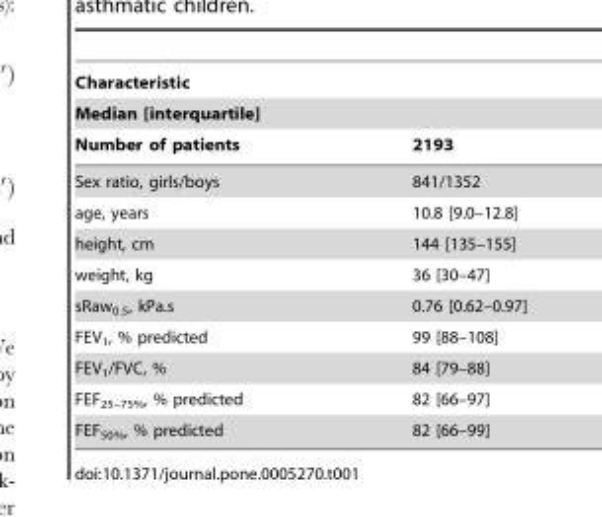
<table><thead><tr><td rowspan="3">Characteristic Median [interquartile] Number of patients</td><td rowspan="3">2193</td></tr><tr></tr><tr></tr></thead><tbody><tr><td>Sex ratio, girls/boys</td><td>841/1352</td></tr><tr><td>age, years</td><td>10.8 [9.0–12.8]</td></tr><tr><td>height, cm</td><td>144 [135–155]</td></tr><tr><td>weight, kg</td><td>36 [30–47]</td></tr><tr><td>sRaw<sub>0.5</sub>, kPa.s</td><td>0.76 [0.62–0.97]</td></tr><tr><td>FEV<sub>1</sub>, % predicted</td><td>99 [88–108]</td></tr><tr><td>FEV<sub>1</sub>/FVC, %</td><td>84 [79–88]</td></tr><tr><td>FEF<sub>25–75%</sub>, % predicted</td><td>82 [66–97]</td></tr><tr><td>FEF<sub>50%</sub>, % predicted</td><td>82 [66–99]</td></tr></tbody></table>